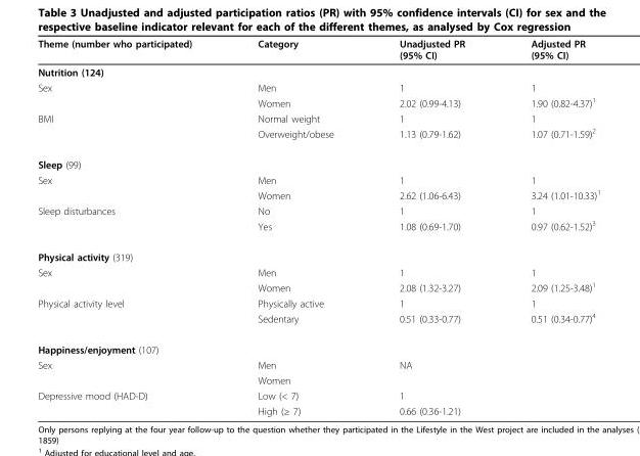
<table><thead><tr><td>Theme (number who participated)</td><td>Category</td><td>Unadjusted PR (95% CI)</td><td>Adjusted PR (95% CI)</td></tr></thead><tbody><tr><td colspan="4">Nutrition (124)</td></tr><tr><td rowspan="2">Sex</td><td>Men</td><td>1</td><td>1</td></tr><tr><td>Women</td><td>2.02 (0.99-4.13)</td><td>1.90 (0.82-4.37)<sup>1</sup></td></tr><tr><td rowspan="2">BMI</td><td>Normal weight</td><td>1</td><td>1</td></tr><tr><td>Overweight/obese</td><td>1.13 (0.79-1.62)</td><td>1.07 (0.71-1.59)<sup>2</sup></td></tr><tr><td colspan="4">Sleep (99)</td></tr><tr><td rowspan="2">Sex</td><td>Men</td><td>1</td><td>1</td></tr><tr><td>Women</td><td>2.62 (1.06-6.43)</td><td>3.24 (1.01-10.33)<sup>1</sup></td></tr><tr><td rowspan="2">Sleep disturbances</td><td>No</td><td>1</td><td>1</td></tr><tr><td>Yes</td><td>1.08 (0.69-1.70)</td><td>0.97 (0.62-1.52)<sup>3</sup></td></tr><tr><td colspan="4">Physical activity (319)</td></tr><tr><td rowspan="2">Sex</td><td>Men</td><td>1</td><td>1</td></tr><tr><td>Women</td><td>2.08 (1.32-3.27)</td><td>2.09 (1.25-3.48)<sup>1</sup></td></tr><tr><td rowspan="2">Physical activity level</td><td>Physically active</td><td>1</td><td>1</td></tr><tr><td>Sedentary</td><td>0.51 (0.33-0.77)</td><td>0.51 (0.34-0.77)<sup>4</sup></td></tr><tr><td colspan="4">Happiness/enjoyment (107)</td></tr><tr><td rowspan="2">Sex</td><td>Men</td><td>NA</td><td></td></tr><tr><td>Women</td><td></td><td></td></tr><tr><td rowspan="2">Depressive mood (HAD-D)</td><td>Low (&lt; 7)</td><td>1</td><td></td></tr><tr><td>High (≥ 7)</td><td>0.66 (0.36-1.21)</td><td></td></tr></tbody></table>